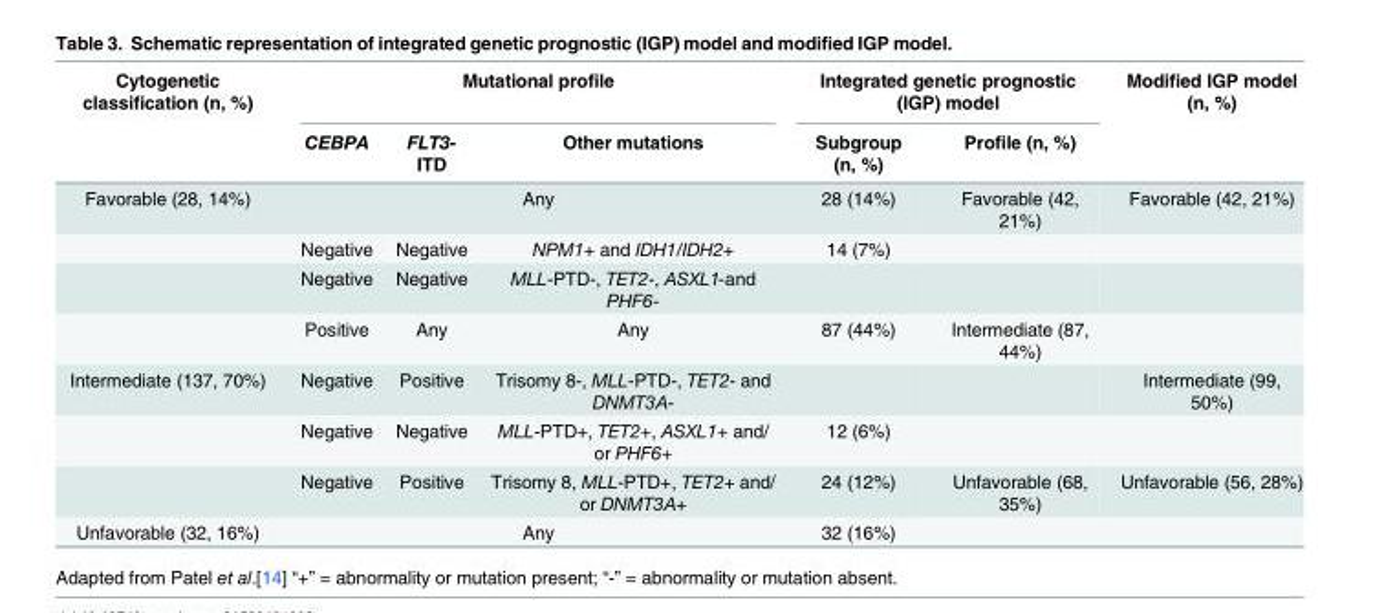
<table><thead><tr><td rowspan="2">Cytogenetic classification (n, %)</td><td colspan="3">Mutational profile</td><td colspan="2">Integrated genetic prognostic (IGP) model</td><td rowspan="2">Modified IGP model (n, %)</td></tr><tr><td>CEBPA</td><td>FLT3- ITD</td><td>Other mutations</td><td>Subgroup (n, %)</td><td>Profile (n, %)</td></tr></thead><tbody><tr><td rowspan="4">Favorable (28, 14%)</td><td colspan="3">Any</td><td>28 (14%)</td><td>Favorable (42, 21%)</td><td>Favorable (42, 21%)</td></tr><tr><td>Negative</td><td>Negative</td><td>NPM1+ and IDH1/IDH2+</td><td>14 (7%)</td><td></td><td></td></tr><tr><td>Negative</td><td>Negative</td><td>MLL-PTD-, TET2-, ASXL1-and PHF6-</td><td></td><td></td><td></td></tr><tr><td>Positive</td><td>Any</td><td>Any</td><td>87 (44%)</td><td>Intermediate (87, 44%)</td><td></td></tr><tr><td rowspan="3">Intermediate (137, 70%)</td><td>Negative</td><td>Positive</td><td>Trisomy 8-, MLL-PTD-, TET2- and DNMT3A-</td><td></td><td></td><td>Intermediate (99, 50%)</td></tr><tr><td>Negative</td><td>Negative</td><td>MLL-PTD+, TET2+, ASXL1+ and/ or PHF6+</td><td>12 (6%)</td><td></td><td></td></tr><tr><td>Negative</td><td>Positive</td><td>Trisomy 8, MLL-PTD+, TET2+ and/ or DNMT3A+</td><td>24 (12%)</td><td>Unfavorable (68, 35%)</td><td>Unfavorable (56, 28%)</td></tr><tr><td>Unfavorable (32, 16%)</td><td colspan="3">Any</td><td>32 (16%)</td><td></td><td></td></tr></tbody></table>